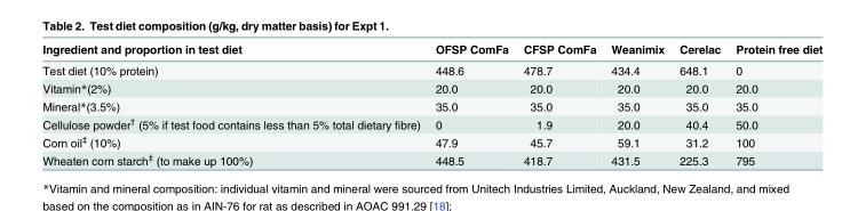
<table><thead><tr><td>Ingredient and proportion in test diet</td><td>OFSP ComFa</td><td>CFSP ComFa</td><td>Weanimix</td><td>Cerelac</td><td>Protein free diet</td></tr></thead><tbody><tr><td>Test diet (10% protein)</td><td>448.6</td><td>478.7</td><td>434.4</td><td>648.1</td><td>0</td></tr><tr><td>Vitamin*(2%)</td><td>20.0</td><td>20.0</td><td>20.0</td><td>20.0</td><td>20.0</td></tr><tr><td>Mineral*(3.5%)</td><td>35.0</td><td>35.0</td><td>35.0</td><td>35.0</td><td>35.0</td></tr><tr><td>Cellulose powder<sup>†</sup> (5% if test food contains less than 5% total dietary fibre)</td><td>0</td><td>1.9</td><td>20.0</td><td>40.4</td><td>50.0</td></tr><tr><td>Corn oil<sup>‡</sup> (10%)</td><td>47.9</td><td>45.7</td><td>59.1</td><td>31.2</td><td>100</td></tr><tr><td>Wheaten corn starch<sup>‡</sup> (to make up 100%)</td><td>448.5</td><td>418.7</td><td>431.5</td><td>225.3</td><td>795</td></tr></tbody></table>